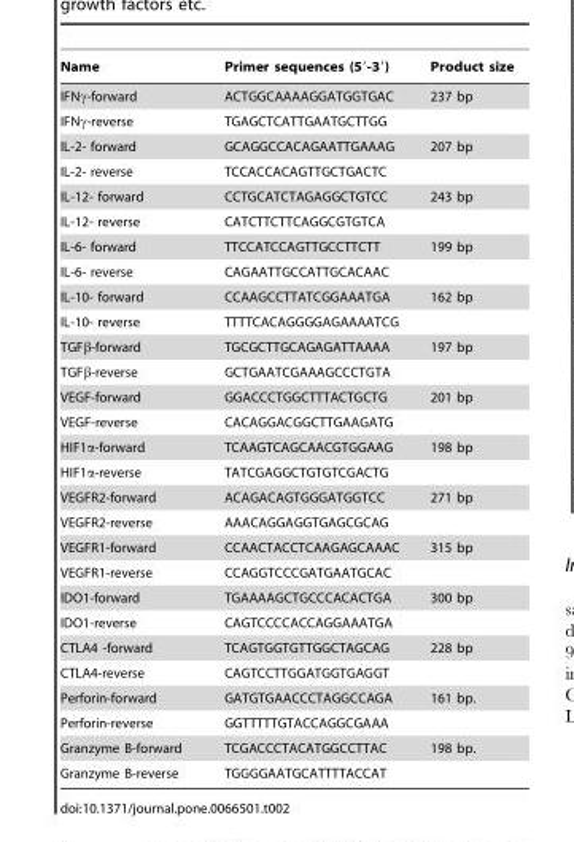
<table><thead><tr><td>Name</td><td>Primer sequences (5′-3′)</td><td>Product size</td></tr></thead><tbody><tr><td>IFNγ-forward</td><td>ACTGGCAAAAGGATGGTGAC</td><td>237 bp</td></tr><tr><td>IFNγ-reverse</td><td>TGAGCTCATTGAATGCTTGG</td><td></td></tr><tr><td>IL-2- forward</td><td>GCAGGCCACAGAATTGAAAG</td><td>207 bp</td></tr><tr><td>IL-2- reverse</td><td>TCCACCACAGTTGCTGACTC</td><td></td></tr><tr><td>IL-12- forward</td><td>CCTGCATCTAGAGGCTGTCC</td><td>243 bp</td></tr><tr><td>IL-12- reverse</td><td>CATCTTCTTCAGGCGTGTCA</td><td></td></tr><tr><td>IL-6- forward</td><td>TTCCATCCAGTTGCCTTCTT</td><td>199 bp</td></tr><tr><td>IL-6- reverse</td><td>CAGAATTGCCATTGCACAAC</td><td></td></tr><tr><td>IL-10- forward</td><td>CCAAGCCTTATCGGAAATGA</td><td>162 bp</td></tr><tr><td>IL-10- reverse</td><td>TTTTCACAGGGGAGAAAATCG</td><td></td></tr><tr><td>TGFβ-forward</td><td>TGCGCTTGCAGAGATTAAAA</td><td>197 bp</td></tr><tr><td>TGFβ-reverse</td><td>GCTGAATCGAAAGCCCTGTA</td><td></td></tr><tr><td>VEGF-forward</td><td>GGACCCTGGCTTTACTGCTG</td><td>201 bp</td></tr><tr><td>VEGF-reverse</td><td>CACAGGACGGCTTGAAGATG</td><td></td></tr><tr><td>HIF1α-forward</td><td>TCAAGTCAGCAACGTGGAAG</td><td>198 bp</td></tr><tr><td>HIF1α-reverse</td><td>TATCGAGGCTGTGTCGACTG</td><td></td></tr><tr><td>VEGFR2-forward</td><td>ACAGACAGTGGGATGGTCC</td><td>271 bp</td></tr><tr><td>VEGFR2-reverse</td><td>AAACAGGAGGTGAGCGCAG</td><td></td></tr><tr><td>VEGFR1-forward</td><td>CCAACTACCTCAAGAGCAAAC</td><td>315 bp</td></tr><tr><td>VEGFR1-reverse</td><td>CCAGGTCCCGATGAATGCAC</td><td></td></tr><tr><td>IDO1-forward</td><td>TGAAAAGCTGCCCACACTGA</td><td>300 bp</td></tr><tr><td>IDO1-reverse</td><td>CAGTCCCCACCAGGAAATGA</td><td></td></tr><tr><td>CTLA4 -forward</td><td>TCAGTGGTGTTGGCTAGCAG</td><td>228 bp</td></tr><tr><td>CTLA4-reverse</td><td>CAGTCCTTGGATGGTGAGGT</td><td></td></tr><tr><td>Perforin-forward</td><td>GATGTGAACCCTAGGCCAGA</td><td>161 bp.</td></tr><tr><td>Perforin-reverse</td><td>GGTTTTTGTACCAGGCGAAA</td><td></td></tr><tr><td>Granzyme B-forward</td><td>TCGACCCTACATGGCCTTAC</td><td>198 bp.</td></tr><tr><td>Granzyme B-reverse</td><td>TGGGGAATGCATTTTACCAT</td><td></td></tr></tbody></table>